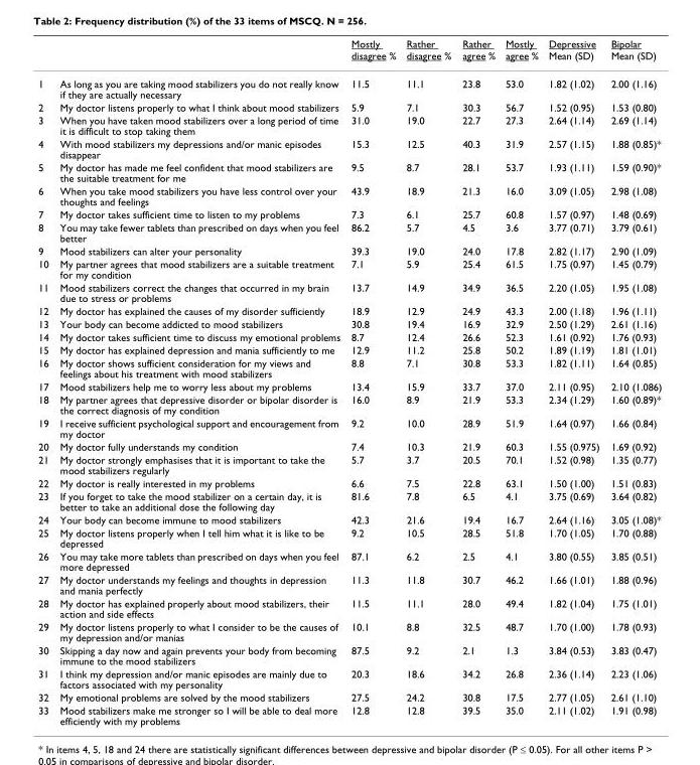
<table><thead><tr><td></td><td></td><td>Mostly disagree %</td><td>Rather disagree %</td><td>Rather agree %</td><td>Mostly agree %</td><td>Depressive Mean (SD)</td><td>Bipolar Mean (SD)</td></tr></thead><tbody><tr><td>1</td><td>As long as you are taking mood stabilizers you do not really know if they are actually necessary</td><td>11.5</td><td>11.1</td><td>23.8</td><td>53.0</td><td>1.82 (1.02)</td><td>2.00 (1.16)</td></tr><tr><td>2</td><td>My doctor listens properly to what I think about mood stabilizers</td><td>5.9</td><td>7.1</td><td>30.3</td><td>56.7</td><td>1.52 (0.95)</td><td>1.53 (0.80)</td></tr><tr><td>3</td><td>When you have taken mood stabilizers over a long period of time it is difficult to stop taking them</td><td>31.0</td><td>19.0</td><td>22.7</td><td>27.3</td><td>2.64 (1.14)</td><td>2.69 (1.14)</td></tr><tr><td>4</td><td>With mood stabilizers my depressions and/or manic episodes disappear</td><td>15.3</td><td>12.5</td><td>40.3</td><td>31.9</td><td>2.57 (1.15)</td><td>1.88 (0.85)*</td></tr><tr><td>5</td><td>My doctor has made me feel confident that mood stabilizers are the suitable treatment for me</td><td>9.5</td><td>8.7</td><td>28.1</td><td>53.7</td><td>1.93 (1.11)</td><td>1.59 (0.90)*</td></tr><tr><td>6</td><td>When you take mood stabilizers you have less control over your thoughts and feelings</td><td>43.9</td><td>18.9</td><td>21.3</td><td>16.0</td><td>3.09 (1.05)</td><td>2.98 (1.08)</td></tr><tr><td>7</td><td>My doctor takes sufficient time to listen to my problems</td><td>7.3</td><td>6.1</td><td>25.7</td><td>60.8</td><td>1.57 (0.97)</td><td>1.48 (0.69)</td></tr><tr><td>8</td><td>You may take fewer tablets than prescribed on days when you feel better</td><td>86.2</td><td>5.7</td><td>4.5</td><td>3.6</td><td>3.77 (0.71)</td><td>3.79 (0.61)</td></tr><tr><td>9</td><td>Mood stabilizers can alter your personality</td><td>39.3</td><td>19.0</td><td>24.0</td><td>17.8</td><td>2.82 (1.17)</td><td>2.90 (1.09)</td></tr><tr><td>10</td><td>My partner agrees that mood stabilizers are a suitable treatment for my condition</td><td>7.1</td><td>5.9</td><td>25.4</td><td>61.5</td><td>1.75 (0.97)</td><td>1.45 (0.79)</td></tr><tr><td>11</td><td>Mood stabilizers correct the changes that occurred in my brain due to stress or problems</td><td>13.7</td><td>14.9</td><td>34.9</td><td>36.5</td><td>2.20 (1.05)</td><td>1.95 (1.08)</td></tr><tr><td>12</td><td>My doctor has explained the causes of my disorder sufficiently</td><td>18.9</td><td>12.9</td><td>24.9</td><td>43.3</td><td>2.00 (1.18)</td><td>1.96 (1.11)</td></tr><tr><td>13</td><td>Your body can become addicted to mood stabilizers</td><td>30.8</td><td>19.4</td><td>16.9</td><td>32.9</td><td>2.50 (1.29)</td><td>2.61 (1.16)</td></tr><tr><td>14</td><td>My doctor takes sufficient time to discuss my emotional problems</td><td>8.7</td><td>12.4</td><td>26.6</td><td>52.3</td><td>1.61 (0.92)</td><td>1.76 (0.93)</td></tr><tr><td>15</td><td>My doctor has explained depression and mania sufficiently to me</td><td>12.9</td><td>11.2</td><td>25.8</td><td>50.2</td><td>1.89 (1.19)</td><td>1.81 (1.01)</td></tr><tr><td>16</td><td>My doctor shows sufficient consideration for my views and feelings about his treatment with mood stabilizers</td><td>8.8</td><td>7.1</td><td>30.8</td><td>53.3</td><td>1.82 (1.11)</td><td>1.64 (0.85)</td></tr><tr><td>17</td><td>Mood stabilizers help me to worry less about my problems</td><td>13.4</td><td>15.9</td><td>33.7</td><td>37.0</td><td>2.11 (0.95)</td><td>2.10 (1.086)</td></tr><tr><td>18</td><td>My partner agrees that depressive disorder or bipolar disorder is the correct diagnosis of my condition</td><td>16.0</td><td>8.9</td><td>21.9</td><td>53.3</td><td>2.34 (1.29)</td><td>1.60 (0.89)*</td></tr><tr><td>19</td><td>I receive sufficient psychological support and encouragement from my doctor</td><td>9.2</td><td>10.0</td><td>28.9</td><td>51.9</td><td>1.64 (0.97)</td><td>1.66 (0.84)</td></tr><tr><td>20</td><td>My doctor fully understands my condition</td><td>7.4</td><td>10.3</td><td>21.9</td><td>60.3</td><td>1.55 (0.975)</td><td>1.69 (0.92)</td></tr><tr><td>21</td><td>My doctor strongly emphasises that it is important to take the mood stabilizers regularly</td><td>5.7</td><td>3.7</td><td>20.5</td><td>70.1</td><td>1.52 (0.98)</td><td>1.35 (0.77)</td></tr><tr><td>22</td><td>My doctor is really interested in my problems</td><td>6.6</td><td>7.5</td><td>22.8</td><td>63.1</td><td>1.50 (1.00)</td><td>1.51 (0.83)</td></tr><tr><td>23</td><td>If you forget to take the mood stabilizer on a certain day, it is better to take an additional dose the following day</td><td>81.6</td><td>7.8</td><td>6.5</td><td>4.1</td><td>3.75 (0.69)</td><td>3.64 (0.82)</td></tr><tr><td>24</td><td>Your body can become immune to mood stabilizers</td><td>42.3</td><td>21.6</td><td>19.4</td><td>16.7</td><td>2.64 (1.16)</td><td>3.05 (1.08)*</td></tr><tr><td>25</td><td>My doctor listens properly when I tell him what it is like to be depressed</td><td>9.2</td><td>10.5</td><td>28.5</td><td>51.8</td><td>1.70 (1.05)</td><td>1.70 (0.88)</td></tr><tr><td>26</td><td>You may take more tablets than prescribed on days when you feel more depressed</td><td>87.1</td><td>6.2</td><td>2.5</td><td>4.1</td><td>3.80 (0.55)</td><td>3.85 (0.51)</td></tr><tr><td>27</td><td>My doctor understands my feelings and thoughts in depression and mania perfectly</td><td>11.3</td><td>11.8</td><td>30.7</td><td>46.2</td><td>1.66 (1.01)</td><td>1.88 (0.96)</td></tr><tr><td>28</td><td>My doctor has explained properly about mood stabilizers, their action and side effects</td><td>11.5</td><td>11.1</td><td>28.0</td><td>49.4</td><td>1.82 (1.04)</td><td>1.75 (1.01)</td></tr><tr><td>29</td><td>My doctor listens properly to what I consider to be the causes of my depression and/or manias</td><td>10.1</td><td>8.8</td><td>32.5</td><td>48.7</td><td>1.70 (1.00)</td><td>1.78 (0.93)</td></tr><tr><td>30</td><td>Skipping a day now and again prevents your body from becoming immune to the mood stabilizers</td><td>87.5</td><td>9.2</td><td>2.1</td><td>1.3</td><td>3.84 (0.53)</td><td>3.83 (0.47)</td></tr><tr><td>31</td><td>I think my depression and/or manic episodes are mainly due to factors associated with my personality</td><td>20.3</td><td>18.6</td><td>34.2</td><td>26.8</td><td>2.36 (1.14)</td><td>2.23 (1.06)</td></tr><tr><td>32</td><td>My emotional problems are solved by the mood stabilizers</td><td>27.5</td><td>24.2</td><td>30.8</td><td>17.5</td><td>2.77 (1.05)</td><td>2.61 (1.10)</td></tr><tr><td>33</td><td>Mood stabilizers make me stronger so I will be able to deal more efficiently with my problems</td><td>12.8</td><td>12.8</td><td>39.5</td><td>35.0</td><td>2.11 (1.02)</td><td>1.91 (0.98)</td></tr></tbody></table>